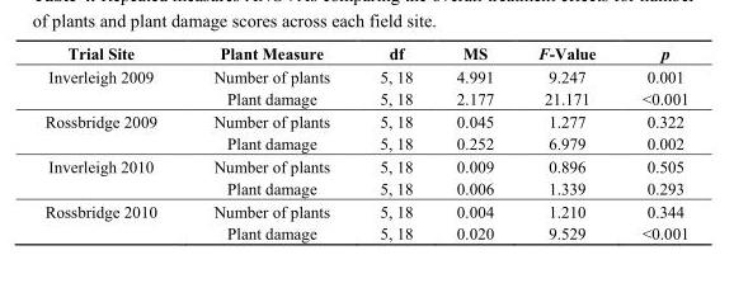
<table><thead><tr><td>Trial Site</td><td>Plant Measure</td><td>df</td><td>MS</td><td>F-Value</td><td>p</td></tr></thead><tbody><tr><td rowspan="2">Inverleigh 2009</td><td>Number of plants</td><td>5, 18</td><td>4.991</td><td>9.247</td><td>0.001</td></tr><tr><td>Plant damage</td><td>5, 18</td><td>2.177</td><td>21.171</td><td>&lt;0.001</td></tr><tr><td rowspan="2">Rossbridge 2009</td><td>Number of plants</td><td>5, 18</td><td>0.045</td><td>1.277</td><td>0.322</td></tr><tr><td>Plant damage</td><td>5, 18</td><td>0.252</td><td>6.979</td><td>0.002</td></tr><tr><td rowspan="2">Inverleigh 2010</td><td>Number of plants</td><td>5, 18</td><td>0.009</td><td>0.896</td><td>0.505</td></tr><tr><td>Plant damage</td><td>5, 18</td><td>0.006</td><td>1.339</td><td>0.293</td></tr><tr><td rowspan="2">Rossbridge 2010</td><td>Number of plants</td><td>5, 18</td><td>0.004</td><td>1.210</td><td>0.344</td></tr><tr><td>Plant damage</td><td>5, 18</td><td>0.020</td><td>9.529</td><td>&lt;0.001</td></tr></tbody></table>